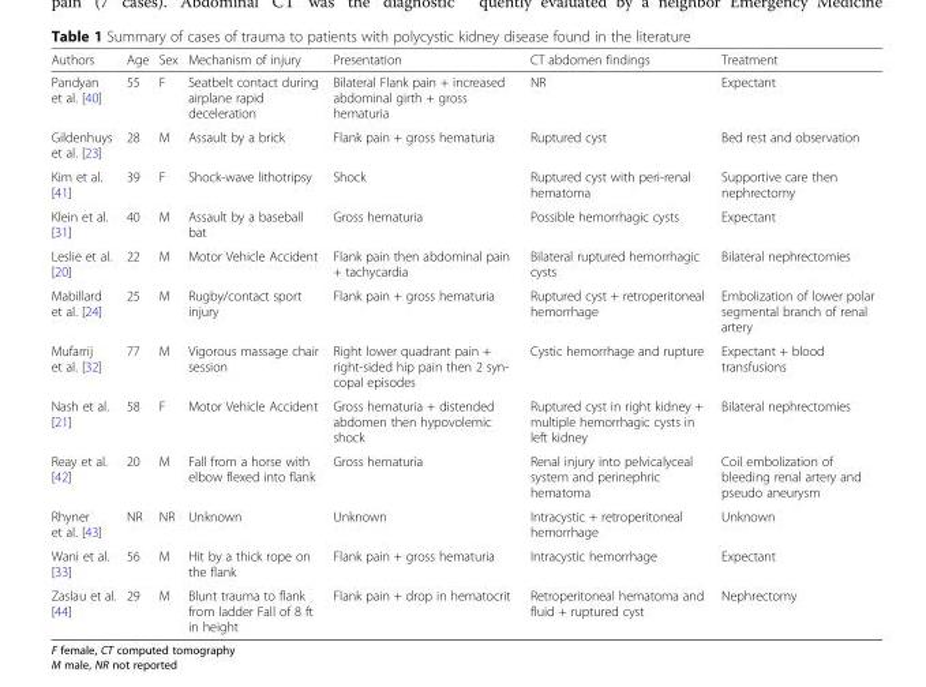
<table><thead><tr><td>Authors</td><td>Age</td><td>Sex</td><td>Mechanism of injury</td><td>Presentation</td><td>CT abdomen findings</td><td>Treatment</td></tr></thead><tbody><tr><td>Pandyan et al. [40]</td><td>55</td><td>F</td><td>Seatbelt contact during airplane rapid deceleration</td><td>Bilateral Flank pain + increased abdominal girth + gross hematuria</td><td>NR</td><td>Expectant</td></tr><tr><td>Gildenhuys et al. [23]</td><td>28</td><td>M</td><td>Assault by a brick</td><td>Flank pain + gross hematuria</td><td>Ruptured cyst</td><td>Bed rest and observation</td></tr><tr><td>Kim et al. [41]</td><td>39</td><td>F</td><td>Shock-wave lithotripsy</td><td>Shock</td><td>Ruptured cyst with peri-renal hematoma</td><td>Supportive care then nephrectomy</td></tr><tr><td>Klein et al. [31]</td><td>40</td><td>M</td><td>Assault by a baseball bat</td><td>Gross hematuria</td><td>Possible hemorrhagic cysts</td><td>Expectant</td></tr><tr><td>Leslie et al. [20]</td><td>22</td><td>M</td><td>Motor Vehicle Accident</td><td>Flank pain then abdominal pain + tachycardia</td><td>Bilateral ruptured hemorrhagic cysts</td><td>Bilateral nephrectomies</td></tr><tr><td>Mabillard et al. [24]</td><td>25</td><td>M</td><td>Rugby/contact sport injury</td><td>Flank pain + gross hematuria</td><td>Ruptured cyst + retroperitoneal hemorrhage</td><td>Embolization of lower polar segmental branch of renal artery</td></tr><tr><td>Mufarrij et al. [32]</td><td>77</td><td>M</td><td>Vigorous massage chair session</td><td>Right lower quadrant pain + right-sided hip pain then 2 syn- copal episodes</td><td>Cystic hemorrhage and rupture</td><td>Expectant + blood transfusions</td></tr><tr><td>Nash et al. [21]</td><td>58</td><td>F</td><td>Motor Vehicle Accident</td><td>Gross hematuria + distended abdomen then hypovolemic shock</td><td>Ruptured cyst in right kidney + multiple hemorrhagic cysts in left kidney</td><td>Bilateral nephrectomies</td></tr><tr><td>Reay et al. [42]</td><td>20</td><td>M</td><td>Fall from a horse with elbow flexed into flank</td><td>Gross hematuria</td><td>Renal injury into pelvicalyceal system and perinephric hematoma</td><td>Coil embolization of bleeding renal artery and pseudo aneurysm</td></tr><tr><td>Rhyner et al. [43]</td><td>NR</td><td>NR</td><td>Unknown</td><td>Unknown</td><td>Intracystic + retroperitoneal hemorrhage</td><td>Unknown</td></tr><tr><td>Wani et al. [33]</td><td>56</td><td>M</td><td>Hit by a thick rope on the flank</td><td>Flank pain + gross hematuria</td><td>Intracystic hemorrhage</td><td>Expectant</td></tr><tr><td>Zaslau et al. [44]</td><td>29</td><td>M</td><td>Blunt trauma to flank from ladder Fall of 8 ft in height</td><td>Flank pain + drop in hematocrit</td><td>Retroperitoneal hematoma and fluid + ruptured cyst</td><td>Nephrectomy</td></tr></tbody></table>